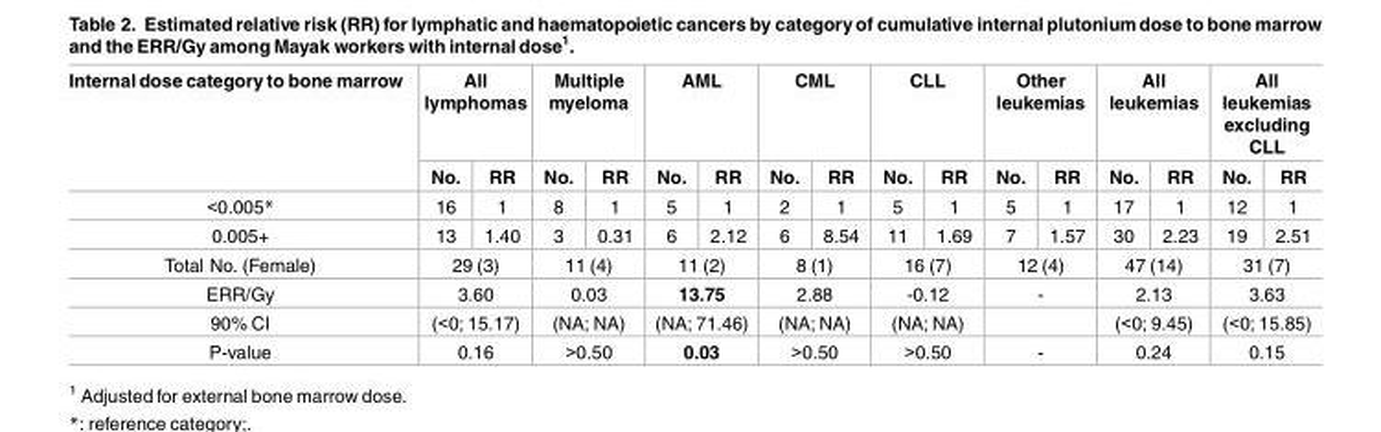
<table><thead><tr><td rowspan="2">Internal dose category to bone marrow</td><td colspan="2">All lymphomas</td><td colspan="2">Multiple myeloma</td><td colspan="2">AML</td><td colspan="2">CML</td><td colspan="2">CLL</td><td colspan="2">Other leukemias</td><td colspan="2">All leukemias</td><td colspan="2">All leukemias excluding CLL</td></tr><tr><td>No.</td><td>RR</td><td>No.</td><td>RR</td><td>No.</td><td>RR</td><td>No.</td><td>RR</td><td>No.</td><td>RR</td><td>No.</td><td>RR</td><td>No.</td><td>RR</td><td>No.</td><td>RR</td></tr></thead><tbody><tr><td>&lt;0.005*</td><td>16</td><td>1</td><td>8</td><td>1</td><td>5</td><td>1</td><td>2</td><td>1</td><td>5</td><td>1</td><td>5</td><td>1</td><td>17</td><td>1</td><td>12</td><td>1</td></tr><tr><td>0.005+</td><td>13</td><td>1.40</td><td>3</td><td>0.31</td><td>6</td><td>2.12</td><td>6</td><td>8.54</td><td>11</td><td>1.69</td><td>7</td><td>1.57</td><td>30</td><td>2.23</td><td>19</td><td>2.51</td></tr><tr><td>Total No. (Female)</td><td colspan="2">29 (3)</td><td colspan="2">11 (4)</td><td colspan="2">11 (2)</td><td colspan="2">8 (1)</td><td colspan="2">16 (7)</td><td colspan="2">12 (4)</td><td colspan="2">47 (14)</td><td colspan="2">31 (7)</td></tr><tr><td>ERR/Gy</td><td colspan="2">3.60</td><td colspan="2">0.03</td><td colspan="2">13.75</td><td colspan="2">2.88</td><td colspan="2">-0.12</td><td colspan="2">-</td><td colspan="2">2.13</td><td colspan="2">3.63</td></tr><tr><td>90% CI</td><td colspan="2">(&lt;0; 15.17)</td><td colspan="2">(NA; NA)</td><td colspan="2">(NA; 71.46)</td><td colspan="2">(NA; NA)</td><td colspan="2">(NA; NA)</td><td colspan="2"></td><td colspan="2">(&lt;0; 9.45)</td><td colspan="2">(&lt;0; 15.85)</td></tr><tr><td>P-value</td><td colspan="2">0.16</td><td colspan="2">&gt;0.50</td><td colspan="2">0.03</td><td colspan="2">&gt;0.50</td><td colspan="2">&gt;0.50</td><td colspan="2">-</td><td colspan="2">0.24</td><td colspan="2">0.15</td></tr></tbody></table>